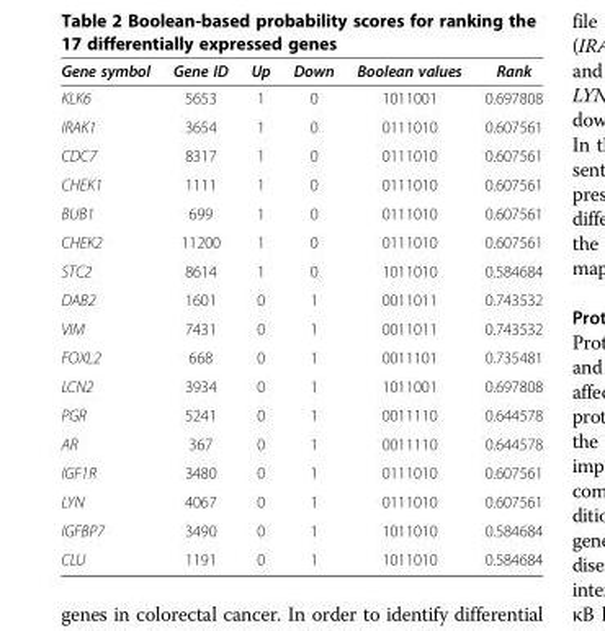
<table><thead><tr><td>Gene symbol</td><td>Gene ID</td><td>Up</td><td>Down</td><td>Boolean values</td><td>Rank</td></tr></thead><tbody><tr><td>KLK6</td><td>5653</td><td>1</td><td>0</td><td>1011001</td><td>0.697808</td></tr><tr><td>IRAK1</td><td>3654</td><td>1</td><td>0</td><td>0111010</td><td>0.607561</td></tr><tr><td>CDC7</td><td>8317</td><td>1</td><td>0</td><td>0111010</td><td>0.607561</td></tr><tr><td>CHEK1</td><td>1111</td><td>1</td><td>0</td><td>0111010</td><td>0.607561</td></tr><tr><td>BUB1</td><td>699</td><td>1</td><td>0</td><td>0111010</td><td>0.607561</td></tr><tr><td>CHEK2</td><td>11200</td><td>1</td><td>0</td><td>0111010</td><td>0.607561</td></tr><tr><td>STC2</td><td>8614</td><td>1</td><td>0</td><td>1011010</td><td>0.584684</td></tr><tr><td>DAB2</td><td>1601</td><td>0</td><td>1</td><td>0011011</td><td>0.743532</td></tr><tr><td>VIM</td><td>7431</td><td>0</td><td>1</td><td>0011011</td><td>0.743532</td></tr><tr><td>FOXL2</td><td>668</td><td>0</td><td>1</td><td>0011101</td><td>0.735481</td></tr><tr><td>LCN2</td><td>3934</td><td>0</td><td>1</td><td>1011001</td><td>0.697808</td></tr><tr><td>PGR</td><td>5241</td><td>0</td><td>1</td><td>0011110</td><td>0.644578</td></tr><tr><td>AR</td><td>367</td><td>0</td><td>1</td><td>0011110</td><td>0.644578</td></tr><tr><td>IGF1R</td><td>3480</td><td>0</td><td>1</td><td>0111010</td><td>0.607561</td></tr><tr><td>LYN</td><td>4067</td><td>0</td><td>1</td><td>0111010</td><td>0.607561</td></tr><tr><td>IGFBP7</td><td>3490</td><td>0</td><td>1</td><td>1011010</td><td>0.584684</td></tr><tr><td>CLU</td><td>1191</td><td>0</td><td>1</td><td>1011010</td><td>0.584684</td></tr></tbody></table>